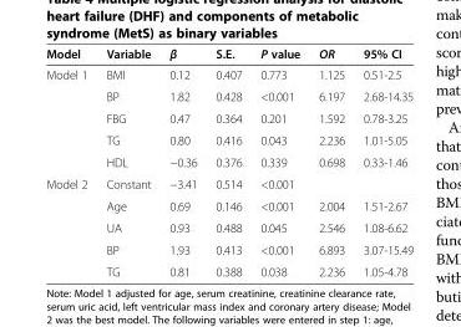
<table><thead><tr><td>Model</td><td>Variable</td><td>β</td><td>S.E.</td><td>P value</td><td>OR</td><td>95% CI</td></tr></thead><tbody><tr><td rowspan="5">Model 1</td><td>BMI</td><td>0.12</td><td>0.407</td><td>0.773</td><td>1.125</td><td>0.51-2.5</td></tr><tr><td>BP</td><td>1.82</td><td>0.428</td><td>&lt;0.001</td><td>6.197</td><td>2.68-14.35</td></tr><tr><td>FBG</td><td>0.47</td><td>0.364</td><td>0.201</td><td>1.592</td><td>0.78-3.25</td></tr><tr><td>TG</td><td>0.80</td><td>0.416</td><td>0.043</td><td>2.236</td><td>1.01-5.05</td></tr><tr><td>HDL</td><td>−0.36</td><td>0.376</td><td>0.339</td><td>0.698</td><td>0.33-1.46</td></tr><tr><td rowspan="5">Model 2</td><td>Constant</td><td>−3.41</td><td>0.514</td><td>&lt;0.001</td><td></td><td></td></tr><tr><td>Age</td><td>0.69</td><td>0.146</td><td>&lt;0.001</td><td>2.004</td><td>1.51-2.67</td></tr><tr><td>UA</td><td>0.93</td><td>0.488</td><td>0.045</td><td>2.546</td><td>1.08-6.62</td></tr><tr><td>BP</td><td>1.93</td><td>0.413</td><td>&lt;0.001</td><td>6.893</td><td>3.07-15.49</td></tr><tr><td>TG</td><td>0.81</td><td>0.388</td><td>0.038</td><td>2.236</td><td>1.05-4.78</td></tr></tbody></table>